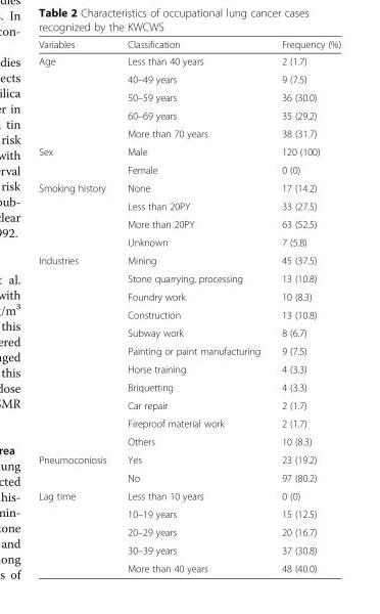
<table><thead><tr><td>Variables</td><td>Classification</td><td>Frequency (%)</td></tr></thead><tbody><tr><td rowspan="5">Age</td><td>Less than 40 years</td><td>2 (1.7)</td></tr><tr><td>40–49 years</td><td>9 (7.5)</td></tr><tr><td>50–59 years</td><td>36 (30.0)</td></tr><tr><td>60–69 years</td><td>35 (29.2)</td></tr><tr><td>More than 70 years</td><td>38 (31.7)</td></tr><tr><td rowspan="2">Sex</td><td>Male</td><td>120 (100)</td></tr><tr><td>Female</td><td>0 (0)</td></tr><tr><td rowspan="4">Smoking history</td><td>None</td><td>17 (14.2)</td></tr><tr><td>Less than 20PY</td><td>33 (27.5)</td></tr><tr><td>More than 20PY</td><td>63 (52.5)</td></tr><tr><td>Unknown</td><td>7 (5.8)</td></tr><tr><td rowspan="11">Industries</td><td>Mining</td><td>45 (37.5)</td></tr><tr><td>Stone quarrying, processing</td><td>13 (10.8)</td></tr><tr><td>Foundry work</td><td>10 (8.3)</td></tr><tr><td>Construction</td><td>13 (10.8)</td></tr><tr><td>Subway work</td><td>8 (6.7)</td></tr><tr><td>Painting or paint manufacturing</td><td>9 (7.5)</td></tr><tr><td>Horse training</td><td>4 (3.3)</td></tr><tr><td>Briquetting</td><td>4 (3.3)</td></tr><tr><td>Car repair</td><td>2 (1.7)</td></tr><tr><td>Fireproof material work</td><td>2 (1.7)</td></tr><tr><td>Others</td><td>10 (8.3)</td></tr><tr><td rowspan="2">Pneumoconiosis</td><td>Yes</td><td>23 (19.2)</td></tr><tr><td>No</td><td>97 (80.2)</td></tr><tr><td rowspan="5">Lag time</td><td>Less than 10 years</td><td>0 (0)</td></tr><tr><td>10–19 years</td><td>15 (12.5)</td></tr><tr><td>20–29 years</td><td>20 (16.7)</td></tr><tr><td>30–39 years</td><td>37 (30.8)</td></tr><tr><td>More than 40 years</td><td>48 (40.0)</td></tr></tbody></table>